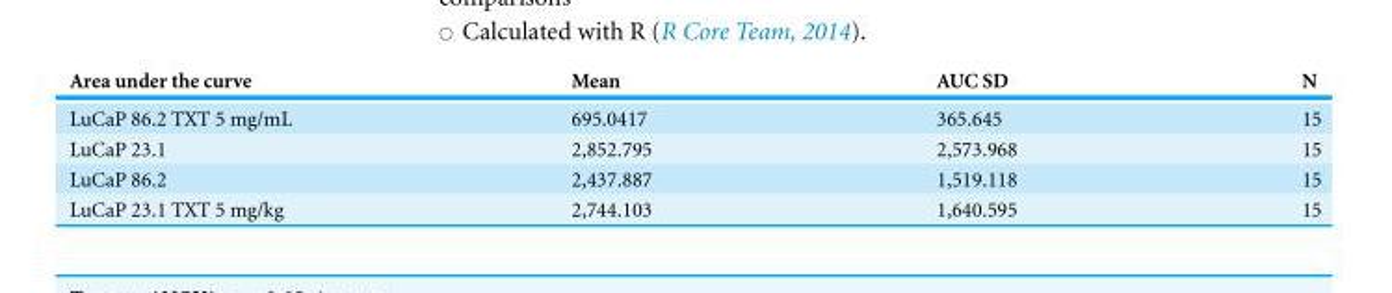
<table><thead><tr><td>Area under the curve</td><td>Mean</td><td>AUC SD</td><td>N</td></tr></thead><tbody><tr><td>LuCaP 86.2 TXT 5 mg/mL</td><td>695.0417</td><td>365.645</td><td>15</td></tr><tr><td>LuCaP 23.1</td><td>2,852.795</td><td>2,573.968</td><td>15</td></tr><tr><td>LuCaP 86.2</td><td>2,437.887</td><td>1,519.118</td><td>15</td></tr><tr><td>LuCaP 23.1 TXT 5 mg/kg</td><td>2,744.103</td><td>1,640.595</td><td>15</td></tr></tbody></table>